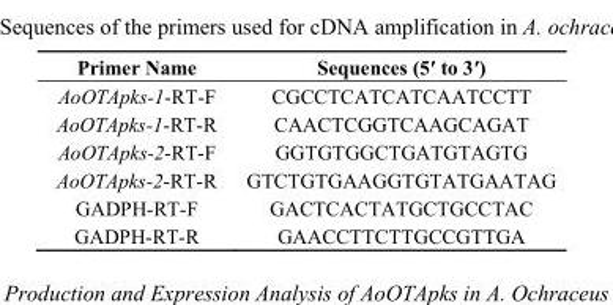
<table><thead><tr><td>Primer Name</td><td>Sequences (5′ to 3′)</td></tr></thead><tbody><tr><td>AoOTApks-1-RT-F</td><td>CGCCTCATCATCAATCCTT</td></tr><tr><td>AoOTApks-1-RT-R</td><td>CAACTCGGTCAAGCAGAT</td></tr><tr><td>AoOTApks-2-RT-F</td><td>GGTGTGGCTGATGTAGTG</td></tr><tr><td>AoOTApks-2-RT-R</td><td>GTCTGTGAAGGTGTATGAATAG</td></tr><tr><td>GADPH-RT-F</td><td>GACTCACTATGCTGCCTAC</td></tr><tr><td>GADPH-RT-R</td><td>GAACCTTCTTGCCGTTGA</td></tr></tbody></table>